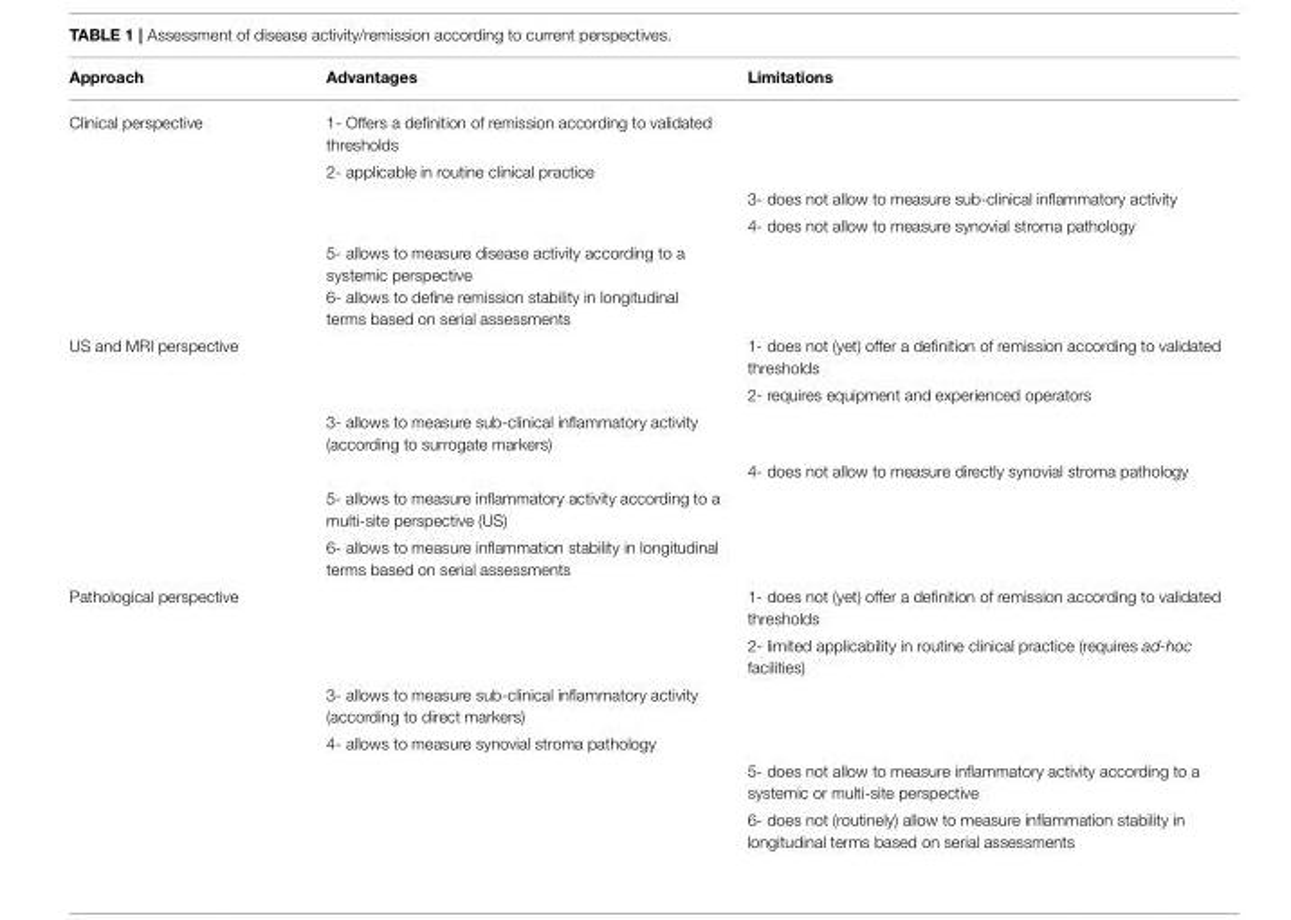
<table><thead><tr><td>Approach</td><td>Advantages</td><td>Limitations</td></tr></thead><tbody><tr><td rowspan="5">Clinical perspective</td><td>1- Offers a definition of remission according to validated thresholds</td><td></td></tr><tr><td>2- applicable in routine clinical practice</td><td></td></tr><tr><td></td><td>3- does not allow to measure sub-clinical inflammatory activity</td></tr><tr><td></td><td>4- does not allow to measure synovial stroma pathology</td></tr><tr><td>5- allows to measure disease activity according to a systemic perspective 6- allows to define remission stability in longitudinal terms based on serial assessments</td><td></td></tr><tr><td rowspan="6">US and MRI perspective</td><td></td><td>1- does not (yet) offer a definition of remission according to validated thresholds</td></tr><tr><td></td><td>2- requires equipment and experienced operators</td></tr><tr><td>3- allows to measure sub-clinical inflammatory activity (according to surrogate markers)</td><td></td></tr><tr><td></td><td>4- does not allow to measure directly synovial stroma pathology</td></tr><tr><td>5- allows to measure inflammatory activity according to a multi-site perspective (US)</td><td></td></tr><tr><td>6- allows to measure inflammation stability in longitudinal terms based on serial assessments</td><td></td></tr><tr><td rowspan="6">Pathological perspective</td><td></td><td>1- does not (yet) offer a definition of remission according to validated thresholds</td></tr><tr><td></td><td>2- limited applicability in routine clinical practice (requires ad-hoc facilities)</td></tr><tr><td>3- allows to measure sub-clinical inflammatory activity (according to direct markers)</td><td></td></tr><tr><td>4- allows to measure synovial stroma pathology</td><td></td></tr><tr><td></td><td>5- does not allow to measure inflammatory activity according to a systemic or multi-site perspective</td></tr><tr><td></td><td>6- does not (routinely) allow to measure inflammation stability in longitudinal terms based on serial assessments</td></tr></tbody></table>